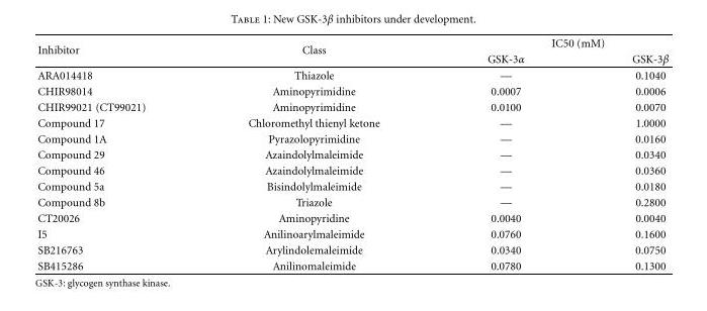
<table><thead><tr><td rowspan="2">Inhibitor</td><td rowspan="2">Class</td><td colspan="2">IC50 (mM)</td></tr><tr><td>GSK-3α</td><td>GSK-3β</td></tr></thead><tbody><tr><td>ARA014418</td><td>Thiazole</td><td>—</td><td>0.1040</td></tr><tr><td>CHIR98014</td><td>Aminopyrimidine</td><td>0.0007</td><td>0.0006</td></tr><tr><td>CHIR99021 (CT99021)</td><td>Aminopyrimidine</td><td>0.0100</td><td>0.0070</td></tr><tr><td>Compound 17</td><td>Chloromethyl thienyl ketone</td><td>—</td><td>1.0000</td></tr><tr><td>Compound 1A</td><td>Pyrazolopyrimidine</td><td>—</td><td>0.0160</td></tr><tr><td>Compound 29</td><td>Azaindolylmaleimide</td><td>—</td><td>0.0340</td></tr><tr><td>Compound 46</td><td>Azaindolylmaleimide</td><td>—</td><td>0.0360</td></tr><tr><td>Compound 5a</td><td>Bisindolylmaleimide</td><td>—</td><td>0.0180</td></tr><tr><td>Compound 8b</td><td>Triazole</td><td>—</td><td>0.2800</td></tr><tr><td>CT20026</td><td>Aminopyridine</td><td>0.0040</td><td>0.0040</td></tr><tr><td>I5</td><td>Anilinoarylmaleimide</td><td>0.0760</td><td>0.1600</td></tr><tr><td>SB216763</td><td>Arylindolemaleimide</td><td>0.0340</td><td>0.0750</td></tr><tr><td>SB415286</td><td>Anilinomaleimide</td><td>0.0780</td><td>0.1300</td></tr></tbody></table>